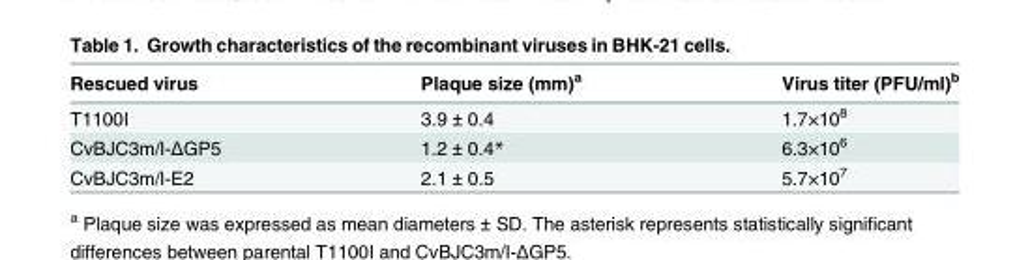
<table><thead><tr><td>Rescued virus</td><td>Plaque size (mm)<sup>a</sup></td><td>Virus titer (PFU/ml)<sup>b</sup></td></tr></thead><tbody><tr><td>T1100I</td><td>3.9 ± 0.4</td><td>1.7×10<sup>8</sup></td></tr><tr><td>CvBJC3m/I-ΔGP5</td><td>1.2 ± 0.4*</td><td>6.3×10<sup>6</sup></td></tr><tr><td>CvBJC3m/I-E2</td><td>2.1 ± 0.5</td><td>5.7×10<sup>7</sup></td></tr></tbody></table>